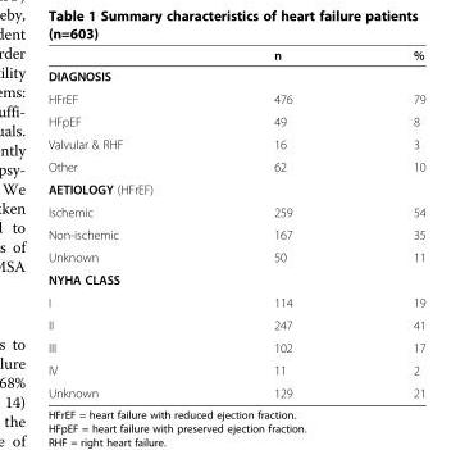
<table><thead><tr><td></td><td>n</td><td>%</td></tr></thead><tbody><tr><td colspan="3">DIAGNOSIS</td></tr><tr><td>HFrEF</td><td>476</td><td>79</td></tr><tr><td>HFpEF</td><td>49</td><td>8</td></tr><tr><td>Valvular &amp; RHF</td><td>16</td><td>3</td></tr><tr><td>Other</td><td>62</td><td>10</td></tr><tr><td colspan="3">AETIOLOGY (HFrEF)</td></tr><tr><td>Ischemic</td><td>259</td><td>54</td></tr><tr><td>Non-ischemic</td><td>167</td><td>35</td></tr><tr><td>Unknown</td><td>50</td><td>11</td></tr><tr><td colspan="3">NYHA CLASS</td></tr><tr><td>I</td><td>114</td><td>19</td></tr><tr><td>II</td><td>247</td><td>41</td></tr><tr><td>III</td><td>102</td><td>17</td></tr><tr><td>IV</td><td>11</td><td>2</td></tr><tr><td>Unknown</td><td>129</td><td>21</td></tr></tbody></table>